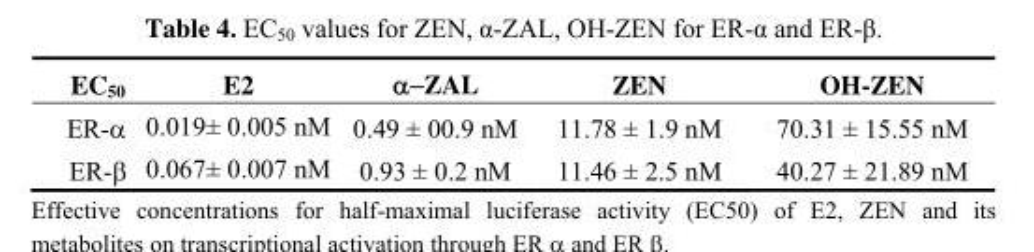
<table><thead><tr><td>EC<sub>50</sub></td><td>E2</td><td>α−ZAL</td><td>ZEN</td><td>OH-ZEN</td></tr></thead><tbody><tr><td>ER-α</td><td>0.019± 0.005 nM</td><td>0.49 ± 00.9 nM</td><td>11.78 ± 1.9 nM</td><td>70.31 ± 15.55 nM</td></tr><tr><td>ER-β</td><td>0.067± 0.007 nM</td><td>0.93 ± 0.2 nM</td><td>11.46 ± 2.5 nM</td><td>40.27 ± 21.89 nM</td></tr></tbody></table>